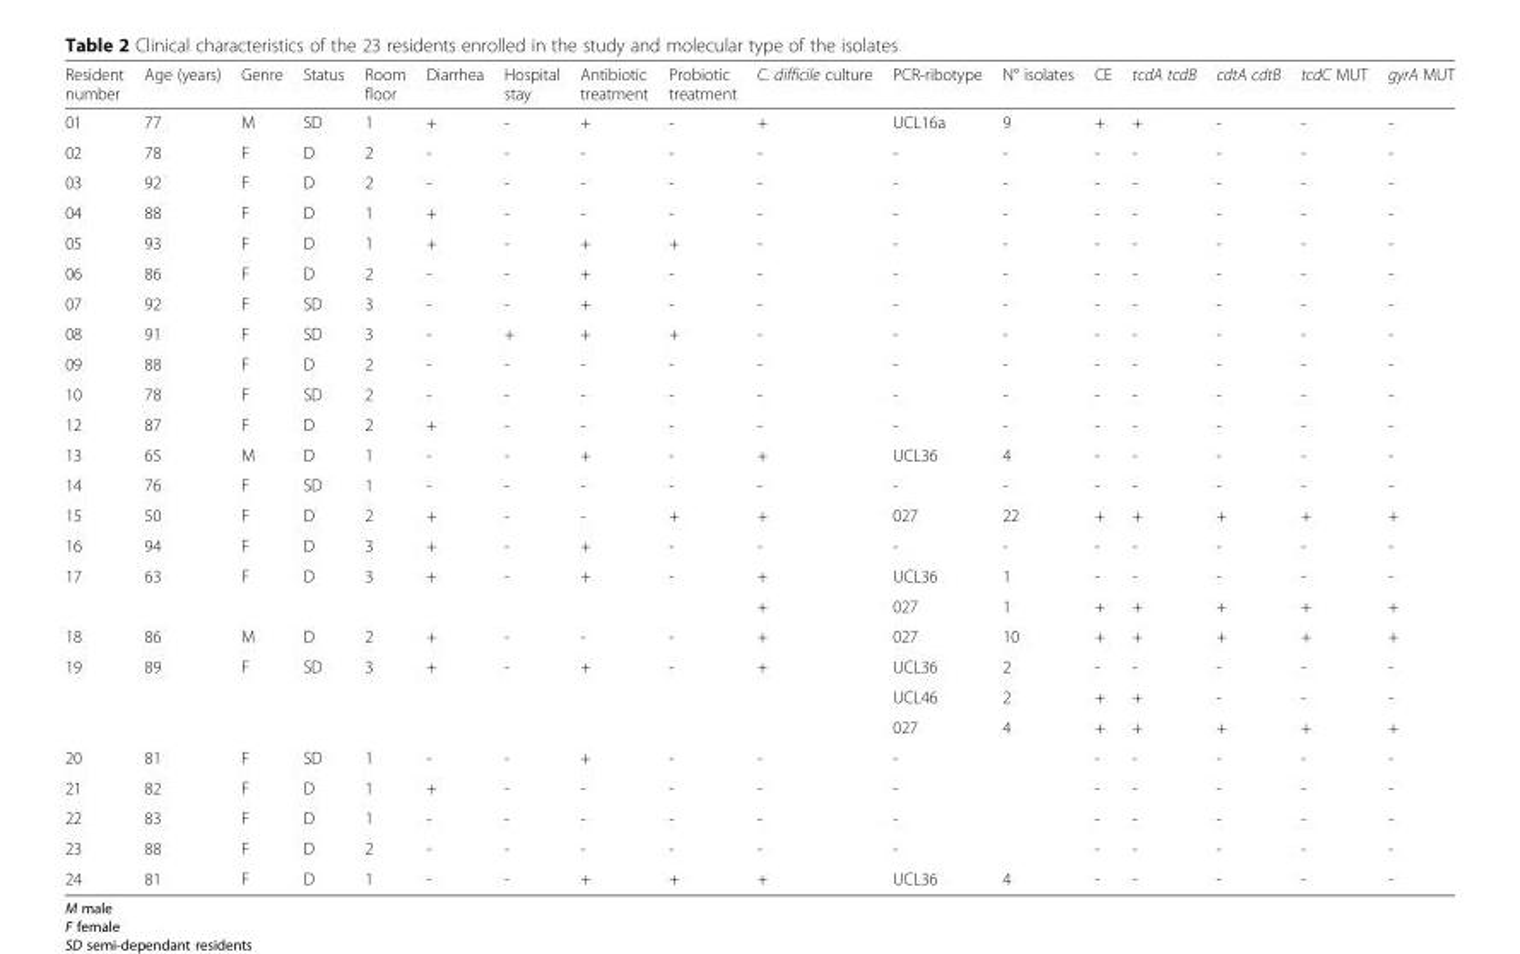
<table><thead><tr><td>Resident number</td><td>Age (years)</td><td>Genre</td><td>Status</td><td>Room floor</td><td>Diarrhea</td><td>Hospital stay</td><td>Antibiotic treatment</td><td>Probiotic treatment</td><td>C. difficile culture</td><td>PCR-ribotype</td><td>N° isolates</td><td>CE</td><td>tcdA tcdB</td><td>cdtA cdtB</td><td>tcdC MUT</td><td>gyrA MUT</td></tr></thead><tbody><tr><td>01</td><td>77</td><td>M</td><td>SD</td><td>1</td><td>+</td><td>-</td><td>+</td><td>-</td><td>+</td><td>UCL16a</td><td>9</td><td>+</td><td>+</td><td>-</td><td>-</td><td>-</td></tr><tr><td>02</td><td>78</td><td>F</td><td>D</td><td>2</td><td>-</td><td>-</td><td>-</td><td>-</td><td>-</td><td>-</td><td>-</td><td>-</td><td>-</td><td>-</td><td>-</td><td>-</td></tr><tr><td>03</td><td>92</td><td>F</td><td>D</td><td>2</td><td>-</td><td>-</td><td>-</td><td>-</td><td>-</td><td>-</td><td>-</td><td>-</td><td>-</td><td>-</td><td>-</td><td>-</td></tr><tr><td>04</td><td>88</td><td>F</td><td>D</td><td>1</td><td>+</td><td>-</td><td>-</td><td>-</td><td>-</td><td>-</td><td>-</td><td>-</td><td>-</td><td>-</td><td>-</td><td>-</td></tr><tr><td>05</td><td>93</td><td>F</td><td>D</td><td>1</td><td>+</td><td>-</td><td>+</td><td>+</td><td>-</td><td>-</td><td>-</td><td>-</td><td>-</td><td>-</td><td>-</td><td>-</td></tr><tr><td>06</td><td>86</td><td>F</td><td>D</td><td>2</td><td>-</td><td>-</td><td>+</td><td>-</td><td>-</td><td>-</td><td>-</td><td>-</td><td>-</td><td>-</td><td>-</td><td>-</td></tr><tr><td>07</td><td>92</td><td>F</td><td>SD</td><td>3</td><td>-</td><td>-</td><td>+</td><td>-</td><td>-</td><td>-</td><td>-</td><td>-</td><td>-</td><td>-</td><td>-</td><td>-</td></tr><tr><td>08</td><td>91</td><td>F</td><td>SD</td><td>3</td><td>-</td><td>+</td><td>+</td><td>+</td><td>-</td><td>-</td><td>-</td><td>-</td><td>-</td><td>-</td><td>-</td><td>-</td></tr><tr><td>09</td><td>88</td><td>F</td><td>D</td><td>2</td><td>-</td><td>-</td><td>-</td><td>-</td><td>-</td><td>-</td><td>-</td><td>-</td><td>-</td><td>-</td><td>-</td><td>-</td></tr><tr><td>10</td><td>78</td><td>F</td><td>SD</td><td>2</td><td>-</td><td>-</td><td>-</td><td>-</td><td>-</td><td>-</td><td>-</td><td>-</td><td>-</td><td>-</td><td>-</td><td>-</td></tr><tr><td>12</td><td>87</td><td>F</td><td>D</td><td>2</td><td>+</td><td>-</td><td>-</td><td>-</td><td>-</td><td>-</td><td>-</td><td>-</td><td>-</td><td>-</td><td>-</td><td>-</td></tr><tr><td>13</td><td>65</td><td>M</td><td>D</td><td>1</td><td>-</td><td>-</td><td>+</td><td>-</td><td>+</td><td>UCL36</td><td>4</td><td>-</td><td>-</td><td>-</td><td>-</td><td>-</td></tr><tr><td>14</td><td>76</td><td>F</td><td>SD</td><td>1</td><td>-</td><td>-</td><td>-</td><td>-</td><td>-</td><td>-</td><td>-</td><td>-</td><td>-</td><td>-</td><td>-</td><td>-</td></tr><tr><td>15</td><td>50</td><td>F</td><td>D</td><td>2</td><td>+</td><td>-</td><td>-</td><td>+</td><td>+</td><td>027</td><td>22</td><td>+</td><td>+</td><td>+</td><td>+</td><td>+</td></tr><tr><td>16</td><td>94</td><td>F</td><td>D</td><td>3</td><td>+</td><td>-</td><td>+</td><td>-</td><td>-</td><td>-</td><td>-</td><td>-</td><td>-</td><td>-</td><td>-</td><td>-</td></tr><tr><td rowspan="2">17</td><td rowspan="2">63</td><td rowspan="2">F</td><td rowspan="2">D</td><td rowspan="2">3</td><td rowspan="2">+</td><td rowspan="2">-</td><td rowspan="2">+</td><td rowspan="2">-</td><td>+</td><td>UCL36</td><td>1</td><td>-</td><td>-</td><td>-</td><td>-</td><td>-</td></tr><tr><td>+</td><td>027</td><td>1</td><td>+</td><td>+</td><td>+</td><td>+</td><td>+</td></tr><tr><td>18</td><td>86</td><td>M</td><td>D</td><td>2</td><td>+</td><td>-</td><td>-</td><td>-</td><td>+</td><td>027</td><td>10</td><td>+</td><td>+</td><td>+</td><td>+</td><td>+</td></tr><tr><td rowspan="3">19</td><td rowspan="3">89</td><td rowspan="3">F</td><td rowspan="3">SD</td><td rowspan="3">3</td><td rowspan="3">+</td><td rowspan="3">-</td><td rowspan="3">+</td><td rowspan="3">-</td><td rowspan="3">+</td><td>UCL36</td><td>2</td><td>-</td><td>-</td><td>-</td><td>-</td><td>-</td></tr><tr><td>UCL46</td><td>2</td><td>+</td><td>+</td><td>-</td><td>-</td><td>-</td></tr><tr><td>027</td><td>4</td><td>+</td><td>+</td><td>+</td><td>+</td><td>+</td></tr><tr><td>20</td><td>81</td><td>F</td><td>SD</td><td>1</td><td>-</td><td>-</td><td>+</td><td>-</td><td>-</td><td>-</td><td></td><td>-</td><td>-</td><td>-</td><td>-</td><td>-</td></tr><tr><td>21</td><td>82</td><td>F</td><td>D</td><td>1</td><td>+</td><td>-</td><td>-</td><td>-</td><td>-</td><td>-</td><td></td><td>-</td><td>-</td><td>-</td><td>-</td><td>-</td></tr><tr><td>22</td><td>83</td><td>F</td><td>D</td><td>1</td><td>-</td><td>-</td><td>-</td><td>-</td><td>-</td><td>-</td><td></td><td>-</td><td>-</td><td>-</td><td>-</td><td>-</td></tr><tr><td>23</td><td>88</td><td>F</td><td>D</td><td>2</td><td>-</td><td>-</td><td>-</td><td>-</td><td>-</td><td>-</td><td></td><td>-</td><td>-</td><td>-</td><td>-</td><td>-</td></tr><tr><td>24</td><td>81</td><td>F</td><td>D</td><td>1</td><td>-</td><td>-</td><td>+</td><td>+</td><td>+</td><td>UCL36</td><td>4</td><td>-</td><td>-</td><td>-</td><td>-</td><td>-</td></tr></tbody></table>